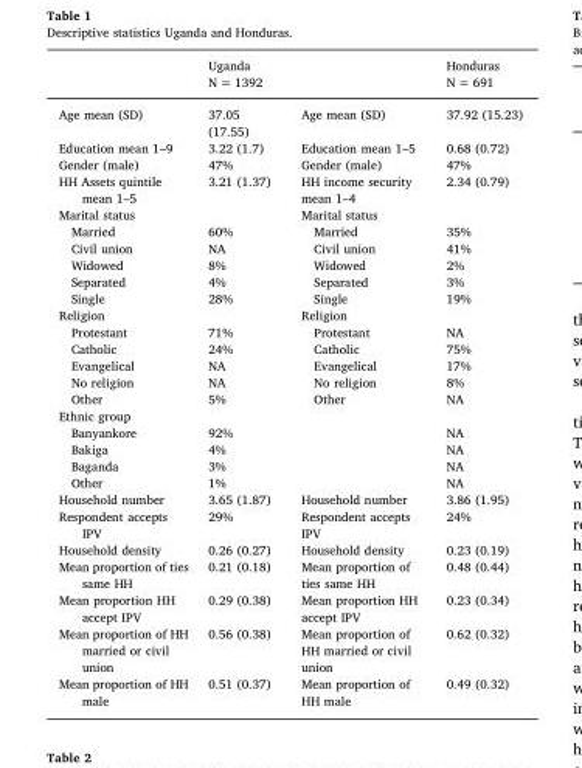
<table><thead><tr><td></td><td>Uganda N = 1392</td><td></td><td>Honduras N = 691</td></tr></thead><tbody><tr><td>Age mean (SD)</td><td>37.05 (17.55)</td><td>Age mean (SD)</td><td>37.92 (15.23)</td></tr><tr><td>Education mean 1–9</td><td>3.22 (1.7)</td><td>Education mean 1–5</td><td>0.68 (0.72)</td></tr><tr><td>Gender (male)</td><td>47%</td><td>Gender (male)</td><td>47%</td></tr><tr><td>HH Assets quintile mean 1–5</td><td>3.21 (1.37)</td><td>HH income security mean 1–4</td><td>2.34 (0.79)</td></tr><tr><td>Marital status</td><td></td><td>Marital status</td><td></td></tr><tr><td>Married</td><td>60%</td><td>Married</td><td>35%</td></tr><tr><td>Civil union</td><td>NA</td><td>Civil union</td><td>41%</td></tr><tr><td>Widowed</td><td>8%</td><td>Widowed</td><td>2%</td></tr><tr><td>Separated</td><td>4%</td><td>Separated</td><td>3%</td></tr><tr><td>Single</td><td>28%</td><td>Single</td><td>19%</td></tr><tr><td>Religion</td><td></td><td>Religion</td><td></td></tr><tr><td>Protestant</td><td>71%</td><td>Protestant</td><td>NA</td></tr><tr><td>Catholic</td><td>24%</td><td>Catholic</td><td>75%</td></tr><tr><td>Evangelical</td><td>NA</td><td>Evangelical</td><td>17%</td></tr><tr><td>No religion</td><td>NA</td><td>No religion</td><td>8%</td></tr><tr><td>Other</td><td>5%</td><td>Other</td><td>NA</td></tr><tr><td colspan="4">Ethnic group</td></tr><tr><td>Banyankore</td><td>92%</td><td></td><td>NA</td></tr><tr><td>Bakiga</td><td>4%</td><td></td><td>NA</td></tr><tr><td>Baganda</td><td>3%</td><td></td><td>NA</td></tr><tr><td>Other</td><td>1%</td><td></td><td>NA</td></tr><tr><td>Household number</td><td>3.65 (1.87)</td><td>Household number</td><td>3.86 (1.95)</td></tr><tr><td>Respondent accepts IPV</td><td>29%</td><td>Respondent accepts IPV</td><td>24%</td></tr><tr><td>Household density</td><td>0.26 (0.27)</td><td>Household density</td><td>0.23 (0.19)</td></tr><tr><td>Mean proportion of ties same HH</td><td>0.21 (0.18)</td><td>Mean proportion of ties same HH</td><td>0.48 (0.44)</td></tr><tr><td>Mean proportion HH accept IPV</td><td>0.29 (0.38)</td><td>Mean proportion HH accept IPV</td><td>0.23 (0.34)</td></tr><tr><td>Mean proportion of HH married or civil union</td><td>0.56 (0.38)</td><td>Mean proportion of HH married or civil union</td><td>0.62 (0.32)</td></tr><tr><td>Mean proportion of HH male</td><td>0.51 (0.37)</td><td>Mean proportion of HH male</td><td>0.49 (0.32)</td></tr></tbody></table>